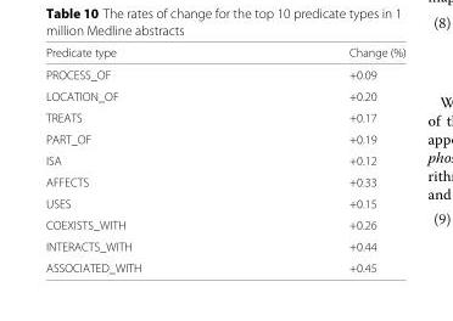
<table><thead><tr><td>Predicate type</td><td>Change (%)</td></tr></thead><tbody><tr><td>PROCESS_OF</td><td>+0.09</td></tr><tr><td>LOCATION_OF</td><td>+0.20</td></tr><tr><td>TREATS</td><td>+0.17</td></tr><tr><td>PART_OF</td><td>+0.19</td></tr><tr><td>ISA</td><td>+0.12</td></tr><tr><td>AFFECTS</td><td>+0.33</td></tr><tr><td>USES</td><td>+0.15</td></tr><tr><td>COEXISTS_WITH</td><td>+0.26</td></tr><tr><td>INTERACTS_WITH</td><td>+0.44</td></tr><tr><td>ASSOCIATED_WITH</td><td>+0.45</td></tr></tbody></table>